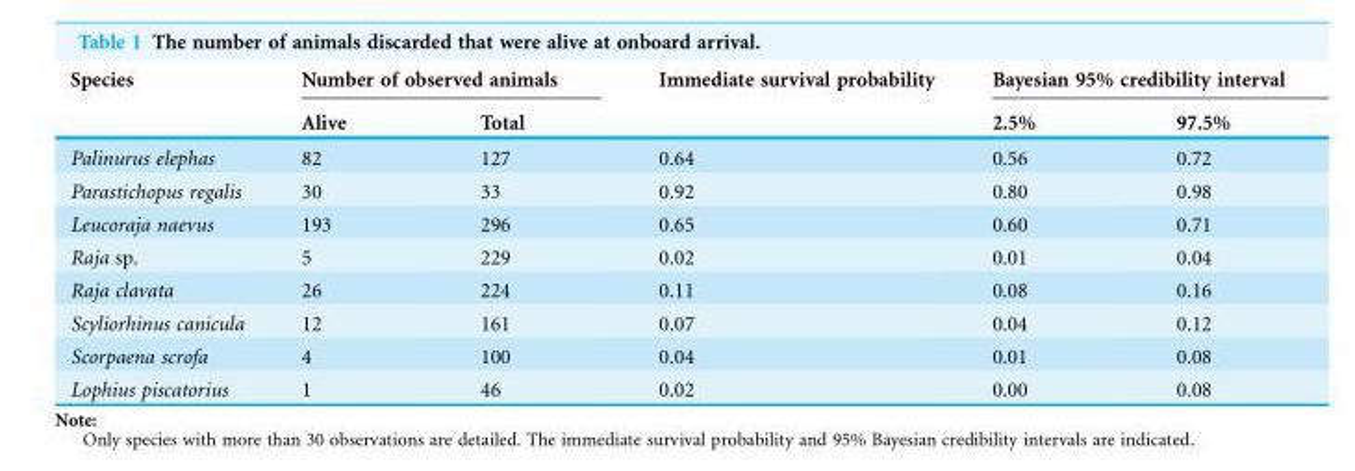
<table><thead><tr><td rowspan="2">Species</td><td colspan="2">Number of observed animals</td><td rowspan="2">Immediate survival probability</td><td colspan="2">Bayesian 95% credibility interval</td></tr><tr><td>Alive</td><td>Total</td><td>2.5%</td><td>97.5%</td></tr></thead><tbody><tr><td>Palinurus elephas</td><td>82</td><td>127</td><td>0.64</td><td>0.56</td><td>0.72</td></tr><tr><td>Parastichopus regalis</td><td>30</td><td>33</td><td>0.92</td><td>0.80</td><td>0.98</td></tr><tr><td>Leucoraja naevus</td><td>193</td><td>296</td><td>0.65</td><td>0.60</td><td>0.71</td></tr><tr><td>Raja sp.</td><td>5</td><td>229</td><td>0.02</td><td>0.01</td><td>0.04</td></tr><tr><td>Raja clavata</td><td>26</td><td>224</td><td>0.11</td><td>0.08</td><td>0.16</td></tr><tr><td>Scyliorhinus canicula</td><td>12</td><td>161</td><td>0.07</td><td>0.04</td><td>0.12</td></tr><tr><td>Scorpaena scrofa</td><td>4</td><td>100</td><td>0.04</td><td>0.01</td><td>0.08</td></tr><tr><td>Lophius piscatorius</td><td>1</td><td>46</td><td>0.02</td><td>0.00</td><td>0.08</td></tr></tbody></table>